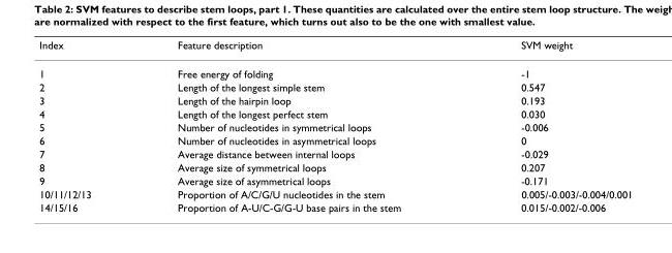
<table><thead><tr><td>Index</td><td>Feature description</td><td>SVM weight</td></tr></thead><tbody><tr><td>1</td><td>Free energy of folding</td><td>-1</td></tr><tr><td>2</td><td>Length of the longest simple stem</td><td>0.547</td></tr><tr><td>3</td><td>Length of the hairpin loop</td><td>0.193</td></tr><tr><td>4</td><td>Length of the longest perfect stem</td><td>0.030</td></tr><tr><td>5</td><td>Number of nucleotides in symmetrical loops</td><td>-0.006</td></tr><tr><td>6</td><td>Number of nucleotides in asymmetrical loops</td><td>0</td></tr><tr><td>7</td><td>Average distance between internal loops</td><td>-0.029</td></tr><tr><td>8</td><td>Average size of symmetrical loops</td><td>0.207</td></tr><tr><td>9</td><td>Average size of asymmetrical loops</td><td>-0.171</td></tr><tr><td>10/11/12/13</td><td>Proportion of A/C/G/U nucleotides in the stem</td><td>0.005/-0.003/-0.004/0.001</td></tr><tr><td>14/15/16</td><td>Proportion of A-U/C-G/G-U base pairs in the stem</td><td>0.015/-0.002/-0.006</td></tr></tbody></table>